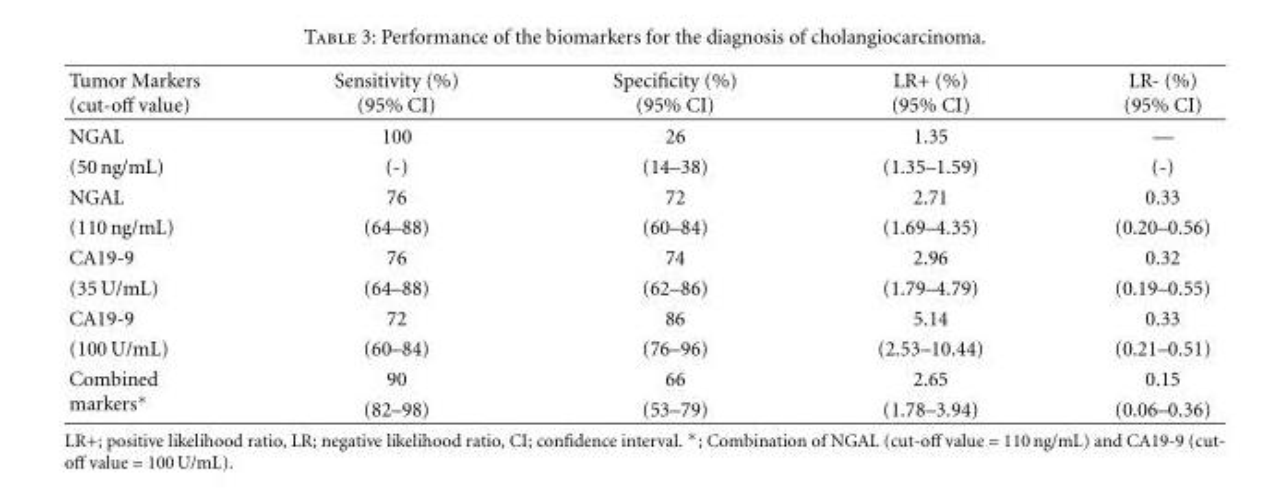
<table><thead><tr><td>Tumor Markers (cut-off value)</td><td>Sensitivity (%) (95% CI)</td><td>Specificity (%) (95% CI)</td><td>LR+ (%) (95% CI)</td><td>LR- (%) (95% CI)</td></tr></thead><tbody><tr><td>NGAL</td><td>100</td><td>26</td><td>1.35</td><td>—</td></tr><tr><td>(50 ng/mL)</td><td>(-)</td><td>(14–38)</td><td>(1.35–1.59)</td><td>(-)</td></tr><tr><td>NGAL</td><td>76</td><td>72</td><td>2.71</td><td>0.33</td></tr><tr><td>(110 ng/mL)</td><td>(64–88)</td><td>(60–84)</td><td>(1.69–4.35)</td><td>(0.20–0.56)</td></tr><tr><td>CA19-9</td><td>76</td><td>74</td><td>2.96</td><td>0.32</td></tr><tr><td>(35 U/mL)</td><td>(64–88)</td><td>(62–86)</td><td>(1.79–4.79)</td><td>(0.19–0.55)</td></tr><tr><td>CA19-9</td><td>72</td><td>86</td><td>5.14</td><td>0.33</td></tr><tr><td>(100 U/mL)</td><td>(60–84)</td><td>(76–96)</td><td>(2.53–10.44)</td><td>(0.21–0.51)</td></tr><tr><td rowspan="2">Combined markers∗</td><td>90</td><td>66</td><td>2.65</td><td>0.15</td></tr><tr><td>(82–98)</td><td>(53–79)</td><td>(1.78–3.94)</td><td>(0.06–0.36)</td></tr></tbody></table>